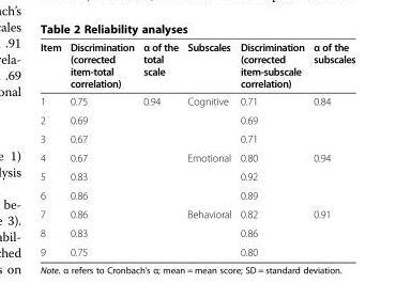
<table><thead><tr><td>Item</td><td>Discrimination (corrected item-total correlation)</td><td>α of the total scale</td><td>Subscales</td><td>Discrimination (corrected item-subscale correlation)</td><td>α of the subscales</td></tr></thead><tbody><tr><td>1</td><td>0.75</td><td>0.94</td><td>Cognitive</td><td>0.71</td><td>0.84</td></tr><tr><td>2</td><td>0.69</td><td></td><td></td><td>0.69</td><td></td></tr><tr><td>3</td><td>0.67</td><td></td><td></td><td>0.71</td><td></td></tr><tr><td>4</td><td>0.67</td><td></td><td>Emotional</td><td>0.80</td><td>0.94</td></tr><tr><td>5</td><td>0.83</td><td></td><td></td><td>0.92</td><td></td></tr><tr><td>6</td><td>0.86</td><td></td><td></td><td>0.89</td><td></td></tr><tr><td>7</td><td>0.86</td><td></td><td>Behavioral</td><td>0.82</td><td>0.91</td></tr><tr><td>8</td><td>0.83</td><td></td><td></td><td>0.86</td><td></td></tr><tr><td>9</td><td>0.75</td><td></td><td></td><td>0.80</td><td></td></tr></tbody></table>